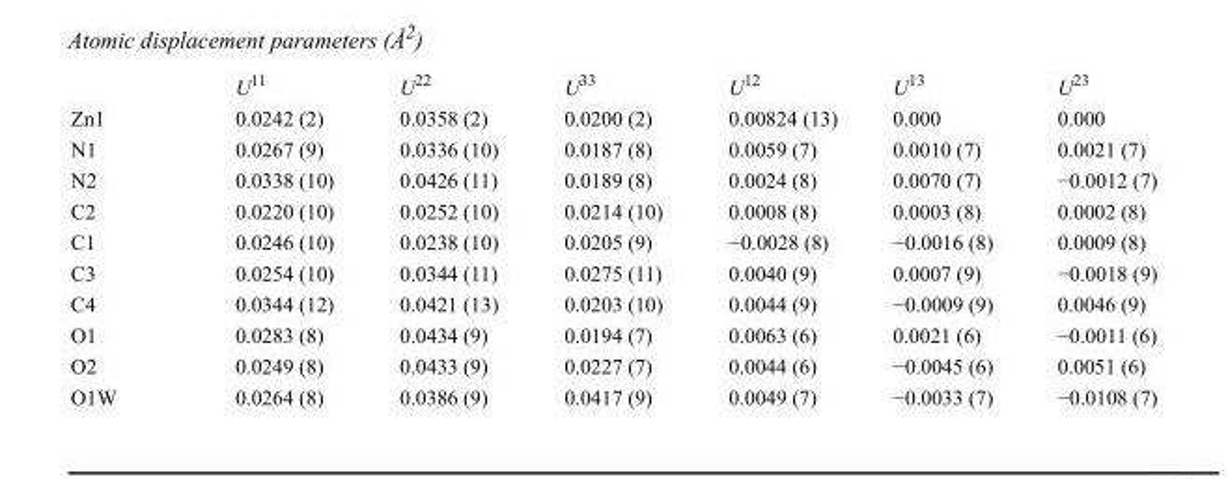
<table><thead><tr><td></td><td>U<sup>11</sup></td><td>U<sup>22</sup></td><td>U<sup>33</sup></td><td>U<sup>12</sup></td><td>U<sup>13</sup></td><td>U<sup>23</sup></td></tr></thead><tbody><tr><td>Zn1</td><td>0.0242 (2)</td><td>0.0358 (2)</td><td>0.0200 (2)</td><td>0.00824 (13)</td><td>0.000</td><td>0.000</td></tr><tr><td>N1</td><td>0.0267 (9)</td><td>0.0336 (10)</td><td>0.0187 (8)</td><td>0.0059 (7)</td><td>0.0010 (7)</td><td>0.0021 (7)</td></tr><tr><td>N2</td><td>0.0338 (10)</td><td>0.0426 (11)</td><td>0.0189 (8)</td><td>0.0024 (8)</td><td>0.0070 (7)</td><td>−0.0012 (7)</td></tr><tr><td>C2</td><td>0.0220 (10)</td><td>0.0252 (10)</td><td>0.0214 (10)</td><td>0.0008 (8)</td><td>0.0003 (8)</td><td>0.0002 (8)</td></tr><tr><td>C1</td><td>0.0246 (10)</td><td>0.0238 (10)</td><td>0.0205 (9)</td><td>−0.0028 (8)</td><td>−0.0016 (8)</td><td>0.0009 (8)</td></tr><tr><td>C3</td><td>0.0254 (10)</td><td>0.0344 (11)</td><td>0.0275 (11)</td><td>0.0040 (9)</td><td>0.0007 (9)</td><td>−0.0018 (9)</td></tr><tr><td>C4</td><td>0.0344 (12)</td><td>0.0421 (13)</td><td>0.0203 (10)</td><td>0.0044 (9)</td><td>−0.0009 (9)</td><td>0.0046 (9)</td></tr><tr><td>O1</td><td>0.0283 (8)</td><td>0.0434 (9)</td><td>0.0194 (7)</td><td>0.0063 (6)</td><td>0.0021 (6)</td><td>−0.0011 (6)</td></tr><tr><td>O2</td><td>0.0249 (8)</td><td>0.0433 (9)</td><td>0.0227 (7)</td><td>0.0044 (6)</td><td>−0.0045 (6)</td><td>0.0051 (6)</td></tr><tr><td>O1W</td><td>0.0264 (8)</td><td>0.0386 (9)</td><td>0.0417 (9)</td><td>0.0049 (7)</td><td>−0.0033 (7)</td><td>−0.0108 (7)</td></tr></tbody></table>